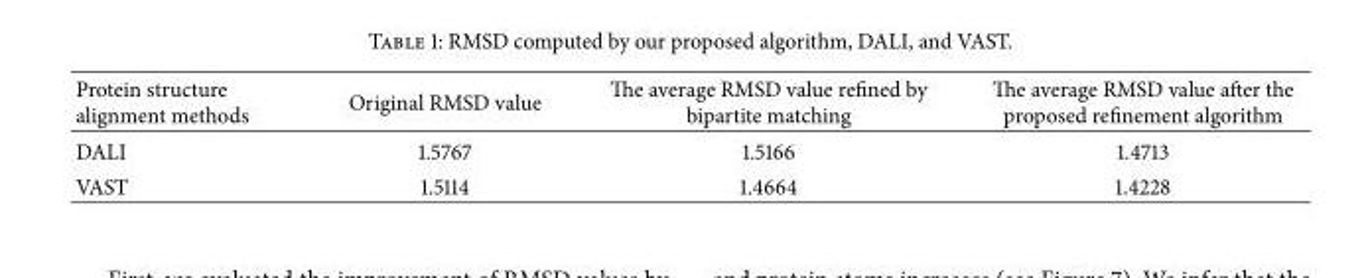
<table><thead><tr><td>Protein structure alignment methods</td><td>Original RMSD value</td><td>The average RMSD value refined by bipartite matching</td><td>The average RMSD value after the proposed refinement algorithm</td></tr></thead><tbody><tr><td>DALI</td><td>1.5767</td><td>1.5166</td><td>1.4713</td></tr><tr><td>VAST</td><td>1.5114</td><td>1.4664</td><td>1.4228</td></tr></tbody></table>